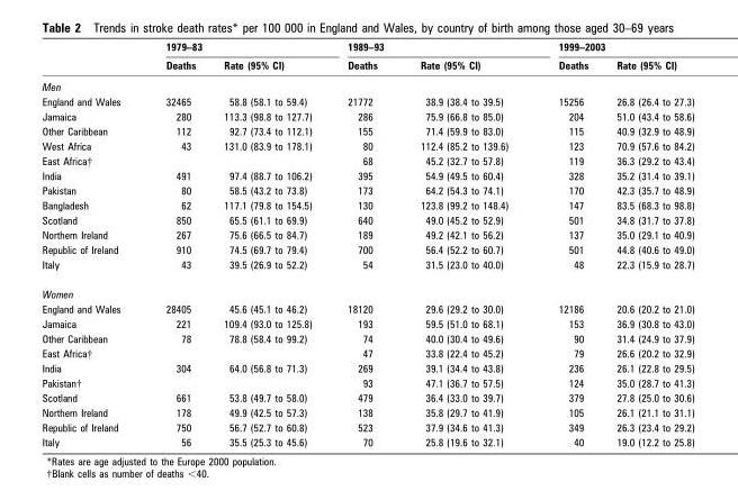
<table><thead><tr><td rowspan="2"></td><td colspan="2">1979–83</td><td colspan="2">1989–93</td><td colspan="2">1999–2003</td></tr><tr><td>Deaths</td><td>Rate (95% CI)</td><td>Deaths</td><td>Rate (95% CI)</td><td>Deaths</td><td>Rate (95% CI)</td></tr></thead><tbody><tr><td colspan="7">Men</td></tr><tr><td>England and Wales</td><td>32465</td><td>58.8 (58.1 to 59.4)</td><td>21772</td><td>38.9 (38.4 to 39.5)</td><td>15256</td><td>26.8 (26.4 to 27.3)</td></tr><tr><td>Jamaica</td><td>280</td><td>113.3 (98.8 to 127.7)</td><td>286</td><td>75.9 (66.8 to 85.0)</td><td>204</td><td>51.0 (43.4 to 58.6)</td></tr><tr><td>Other Caribbean</td><td>112</td><td>92.7 (73.4 to 112.1)</td><td>155</td><td>71.4 (59.9 to 83.0)</td><td>115</td><td>40.9 (32.9 to 48.9)</td></tr><tr><td>West Africa</td><td>43</td><td>131.0 (83.9 to 178.1)</td><td>80</td><td>112.4 (85.2 to 139.6)</td><td>123</td><td>70.9 (57.6 to 84.2)</td></tr><tr><td>East Africa†</td><td></td><td></td><td>68</td><td>45.2 (32.7 to 57.8)</td><td>119</td><td>36.3 (29.2 to 43.4)</td></tr><tr><td>India</td><td>491</td><td>97.4 (88.7 to 106.2)</td><td>395</td><td>54.9 (49.5 to 60.4)</td><td>328</td><td>35.2 (31.4 to 39.1)</td></tr><tr><td>Pakistan</td><td>80</td><td>58.5 (43.2 to 73.8)</td><td>173</td><td>64.2 (54.3 to 74.1)</td><td>170</td><td>42.3 (35.7 to 48.9)</td></tr><tr><td>Bangladesh</td><td>62</td><td>117.1 (79.8 to 154.5)</td><td>130</td><td>123.8 (99.2 to 148.4)</td><td>147</td><td>83.5 (68.3 to 98.8)</td></tr><tr><td>Scotland</td><td>850</td><td>65.5 (61.1 to 69.9)</td><td>640</td><td>49.0 (45.2 to 52.9)</td><td>501</td><td>34.8 (31.7 to 37.8)</td></tr><tr><td>Northern Ireland</td><td>267</td><td>75.6 (66.5 to 84.7)</td><td>189</td><td>49.2 (42.1 to 56.2)</td><td>137</td><td>35.0 (29.1 to 40.9)</td></tr><tr><td>Republic of Ireland</td><td>910</td><td>74.5 (69.7 to 79.4)</td><td>700</td><td>56.4 (52.2 to 60.7)</td><td>501</td><td>44.8 (40.6 to 49.0)</td></tr><tr><td>Italy</td><td>43</td><td>39.5 (26.9 to 52.2)</td><td>54</td><td>31.5 (23.0 to 40.0)</td><td>48</td><td>22.3 (15.9 to 28.7)</td></tr><tr><td colspan="7">Women</td></tr><tr><td>England and Wales</td><td>28405</td><td>45.6 (45.1 to 46.2)</td><td>18120</td><td>29.6 (29.2 to 30.0)</td><td>12186</td><td>20.6 (20.2 to 21.0)</td></tr><tr><td>Jamaica</td><td>221</td><td>109.4 (93.0 to 125.8)</td><td>193</td><td>59.5 (51.0 to 68.1)</td><td>153</td><td>36.9 (30.8 to 43.0)</td></tr><tr><td>Other Caribbean</td><td>78</td><td>78.8 (58.4 to 99.2)</td><td>74</td><td>40.0 (30.4 to 49.6)</td><td>90</td><td>31.4 (24.9 to 37.9)</td></tr><tr><td>East Africa†</td><td></td><td></td><td>47</td><td>33.8 (22.4 to 45.2)</td><td>79</td><td>26.6 (20.2 to 32.9)</td></tr><tr><td>India</td><td>304</td><td>64.0 (56.8 to 71.3)</td><td>269</td><td>39.1 (34.4 to 43.8)</td><td>236</td><td>26.1 (22.8 to 29.5)</td></tr><tr><td>Pakistan†</td><td></td><td></td><td>93</td><td>47.1 (36.7 to 57.5)</td><td>124</td><td>35.0 (28.7 to 41.3)</td></tr><tr><td>Scotland</td><td>661</td><td>53.8 (49.7 to 58.0)</td><td>479</td><td>36.4 (33.0 to 39.7)</td><td>379</td><td>27.8 (25.0 to 30.6)</td></tr><tr><td>Northern Ireland</td><td>178</td><td>49.9 (42.5 to 57.3)</td><td>138</td><td>35.8 (29.7 to 41.9)</td><td>105</td><td>26.1 (21.1 to 31.1)</td></tr><tr><td>Republic of Ireland</td><td>750</td><td>56.7 (52.7 to 60.8)</td><td>523</td><td>37.9 (34.6 to 41.3)</td><td>349</td><td>26.3 (23.4 to 29.2)</td></tr><tr><td>Italy</td><td>56</td><td>35.5 (25.3 to 45.6)</td><td>70</td><td>25.8 (19.6 to 32.1)</td><td>40</td><td>19.0 (12.2 to 25.8)</td></tr></tbody></table>